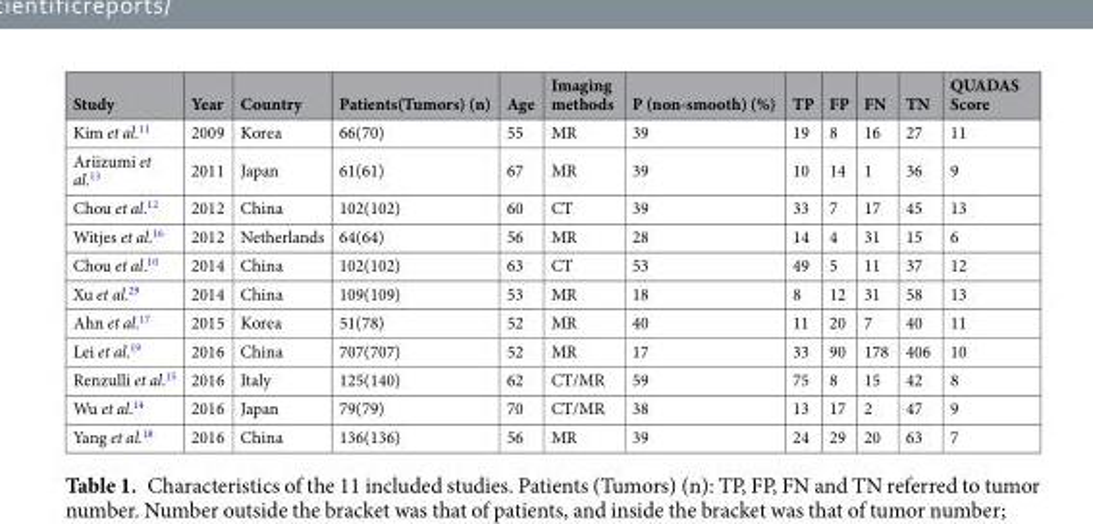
<table><thead><tr><td>Study</td><td>Year</td><td>Country</td><td>Patients(Tumors) (n)</td><td>Age</td><td>Imaging methods</td><td>P (non-smooth) (%)</td><td>TP</td><td>FP</td><td>FN</td><td>TN</td><td>QUADAS Score</td></tr></thead><tbody><tr><td>Kim et al.<sup>11</sup></td><td>2009</td><td>Korea</td><td>66(70)</td><td>55</td><td>MR</td><td>39</td><td>19</td><td>8</td><td>16</td><td>27</td><td>11</td></tr><tr><td>Ariizumi et al.<sup>13</sup></td><td>2011</td><td>Japan</td><td>61(61)</td><td>67</td><td>MR</td><td>39</td><td>10</td><td>14</td><td>1</td><td>36</td><td>9</td></tr><tr><td>Chou et al.<sup>12</sup></td><td>2012</td><td>China</td><td>102(102)</td><td>60</td><td>CT</td><td>39</td><td>33</td><td>7</td><td>17</td><td>45</td><td>13</td></tr><tr><td>Witjes et al.<sup>16</sup></td><td>2012</td><td>Netherlands</td><td>64(64)</td><td>56</td><td>MR</td><td>28</td><td>14</td><td>4</td><td>31</td><td>15</td><td>6</td></tr><tr><td>Chou et al.<sup>10</sup></td><td>2014</td><td>China</td><td>102(102)</td><td>63</td><td>CT</td><td>53</td><td>49</td><td>5</td><td>11</td><td>37</td><td>12</td></tr><tr><td>Xu et al.<sup>29</sup></td><td>2014</td><td>China</td><td>109(109)</td><td>53</td><td>MR</td><td>18</td><td>8</td><td>12</td><td>31</td><td>58</td><td>13</td></tr><tr><td>Ahn et al.<sup>17</sup></td><td>2015</td><td>Korea</td><td>51(78)</td><td>52</td><td>MR</td><td>40</td><td>11</td><td>20</td><td>7</td><td>40</td><td>11</td></tr><tr><td>Lei et al.<sup>19</sup></td><td>2016</td><td>China</td><td>707(707)</td><td>52</td><td>MR</td><td>17</td><td>33</td><td>90</td><td>178</td><td>406</td><td>10</td></tr><tr><td>Renzulli et al.<sup>15</sup></td><td>2016</td><td>Italy</td><td>125(140)</td><td>62</td><td>CT/MR</td><td>59</td><td>75</td><td>8</td><td>15</td><td>42</td><td>8</td></tr><tr><td>Wu et al.<sup>14</sup></td><td>2016</td><td>Japan</td><td>79(79)</td><td>70</td><td>CT/MR</td><td>38</td><td>13</td><td>17</td><td>2</td><td>47</td><td>9</td></tr><tr><td>Yang et al.<sup>18</sup></td><td>2016</td><td>China</td><td>136(136)</td><td>56</td><td>MR</td><td>39</td><td>24</td><td>29</td><td>20</td><td>63</td><td>7</td></tr></tbody></table>